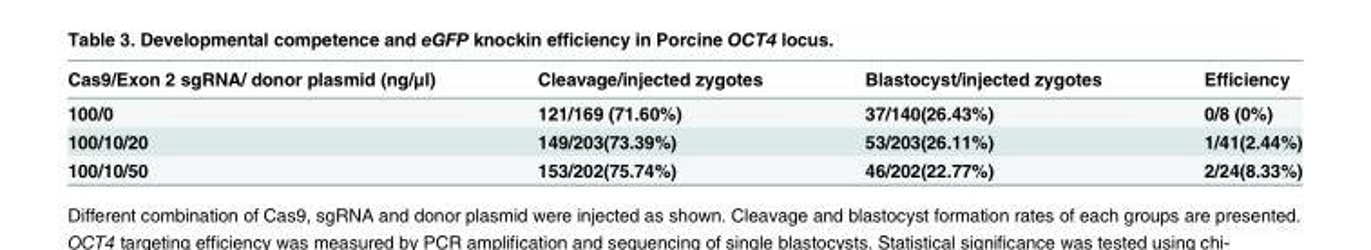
<table><thead><tr><td>Cas9/Exon 2 sgRNA/ donor plasmid (ng/μl)</td><td>Cleavage/injected zygotes</td><td>Blastocyst/injected zygotes</td><td>Efficiency</td></tr></thead><tbody><tr><td>100/0</td><td>121/169 (71.60%)</td><td>37/140(26.43%)</td><td>0/8 (0%)</td></tr><tr><td>100/10/20</td><td>149/203(73.39%)</td><td>53/203(26.11%)</td><td>1/41(2.44%)</td></tr><tr><td>100/10/50</td><td>153/202(75.74%)</td><td>46/202(22.77%)</td><td>2/24(8.33%)</td></tr></tbody></table>